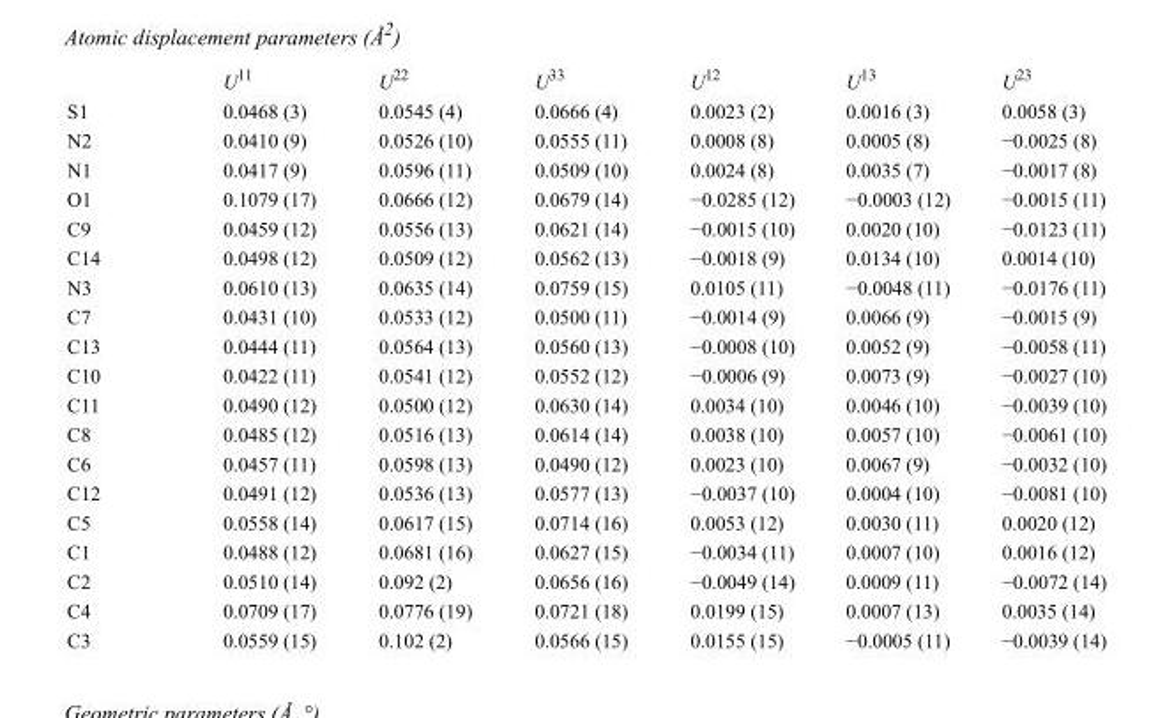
<table><thead><tr><td></td><td>U<sup>11</sup></td><td>U<sup>22</sup></td><td>U<sup>33</sup></td><td>U<sup>12</sup></td><td>U<sup>13</sup></td><td>U<sup>23</sup></td></tr></thead><tbody><tr><td>S1</td><td>0.0468 (3)</td><td>0.0545 (4)</td><td>0.0666 (4)</td><td>0.0023 (2)</td><td>0.0016 (3)</td><td>0.0058 (3)</td></tr><tr><td>N2</td><td>0.0410 (9)</td><td>0.0526 (10)</td><td>0.0555 (11)</td><td>0.0008 (8)</td><td>0.0005 (8)</td><td>−0.0025 (8)</td></tr><tr><td>N1</td><td>0.0417 (9)</td><td>0.0596 (11)</td><td>0.0509 (10)</td><td>0.0024 (8)</td><td>0.0035 (7)</td><td>−0.0017 (8)</td></tr><tr><td>O1</td><td>0.1079 (17)</td><td>0.0666 (12)</td><td>0.0679 (14)</td><td>−0.0285 (12)</td><td>−0.0003 (12)</td><td>−0.0015 (11)</td></tr><tr><td>C9</td><td>0.0459 (12)</td><td>0.0556 (13)</td><td>0.0621 (14)</td><td>−0.0015 (10)</td><td>0.0020 (10)</td><td>−0.0123 (11)</td></tr><tr><td>C14</td><td>0.0498 (12)</td><td>0.0509 (12)</td><td>0.0562 (13)</td><td>−0.0018 (9)</td><td>0.0134 (10)</td><td>0.0014 (10)</td></tr><tr><td>N3</td><td>0.0610 (13)</td><td>0.0635 (14)</td><td>0.0759 (15)</td><td>0.0105 (11)</td><td>−0.0048 (11)</td><td>−0.0176 (11)</td></tr><tr><td>C7</td><td>0.0431 (10)</td><td>0.0533 (12)</td><td>0.0500 (11)</td><td>−0.0014 (9)</td><td>0.0066 (9)</td><td>−0.0015 (9)</td></tr><tr><td>C13</td><td>0.0444 (11)</td><td>0.0564 (13)</td><td>0.0560 (13)</td><td>−0.0008 (10)</td><td>0.0052 (9)</td><td>−0.0058 (11)</td></tr><tr><td>C10</td><td>0.0422 (11)</td><td>0.0541 (12)</td><td>0.0552 (12)</td><td>−0.0006 (9)</td><td>0.0073 (9)</td><td>−0.0027 (10)</td></tr><tr><td>C11</td><td>0.0490 (12)</td><td>0.0500 (12)</td><td>0.0630 (14)</td><td>0.0034 (10)</td><td>0.0046 (10)</td><td>−0.0039 (10)</td></tr><tr><td>C8</td><td>0.0485 (12)</td><td>0.0516 (13)</td><td>0.0614 (14)</td><td>0.0038 (10)</td><td>0.0057 (10)</td><td>−0.0061 (10)</td></tr><tr><td>C6</td><td>0.0457 (11)</td><td>0.0598 (13)</td><td>0.0490 (12)</td><td>0.0023 (10)</td><td>0.0067 (9)</td><td>−0.0032 (10)</td></tr><tr><td>C12</td><td>0.0491 (12)</td><td>0.0536 (13)</td><td>0.0577 (13)</td><td>−0.0037 (10)</td><td>0.0004 (10)</td><td>−0.0081 (10)</td></tr><tr><td>C5</td><td>0.0558 (14)</td><td>0.0617 (15)</td><td>0.0714 (16)</td><td>0.0053 (12)</td><td>0.0030 (11)</td><td>0.0020 (12)</td></tr><tr><td>C1</td><td>0.0488 (12)</td><td>0.0681 (16)</td><td>0.0627 (15)</td><td>−0.0034 (11)</td><td>0.0007 (10)</td><td>0.0016 (12)</td></tr><tr><td>C2</td><td>0.0510 (14)</td><td>0.092 (2)</td><td>0.0656 (16)</td><td>−0.0049 (14)</td><td>0.0009 (11)</td><td>−0.0072 (14)</td></tr><tr><td>C4</td><td>0.0709 (17)</td><td>0.0776 (19)</td><td>0.0721 (18)</td><td>0.0199 (15)</td><td>0.0007 (13)</td><td>0.0035 (14)</td></tr><tr><td>C3</td><td>0.0559 (15)</td><td>0.102 (2)</td><td>0.0566 (15)</td><td>0.0155 (15)</td><td>−0.0005 (11)</td><td>−0.0039 (14)</td></tr></tbody></table>